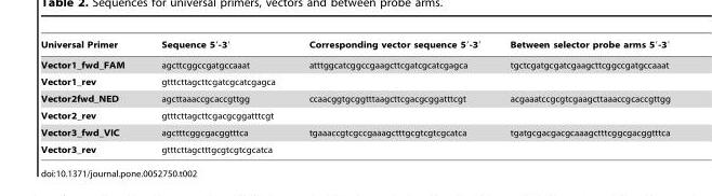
<table><thead><tr><td>Universal Primer</td><td>Sequence 5′-3′</td><td>Corresponding vector sequence 5′-3′</td><td>Between selector probe arms 5′-3′</td></tr></thead><tbody><tr><td>Vector1_fwd_FAM</td><td>agcttcggccgatgccaaat</td><td>atttggcatcggccgaagcttcgatcgcatcgagca</td><td>tgctcgatgcgatcgaagcttcggccgatgccaaat</td></tr><tr><td>Vector1_rev</td><td>gtttcttagcttcgatcgcatcgagca</td><td></td><td></td></tr><tr><td>Vector2fwd_NED</td><td>agcttaaaccgcaccgttgg</td><td>ccaacggtgcggtttaagcttcgacgcggatttcgt</td><td>acgaaatccgcgtcgaagcttaaaccgcaccgttgg</td></tr><tr><td>Vector2_rev</td><td>gtttcttagcttcgacgcggatttcgt</td><td></td><td></td></tr><tr><td>Vector3_fwd_VIC</td><td>agctttcggcgacggtttca</td><td>tgaaaccgtcgccgaaagctttgcgtcgtcgcatca</td><td>tgatgcgacgacgcaaagctttcggcgacggtttca</td></tr><tr><td>Vector3_rev</td><td>gtttcttagctttgcgtcgtcgcatca</td><td></td><td></td></tr></tbody></table>